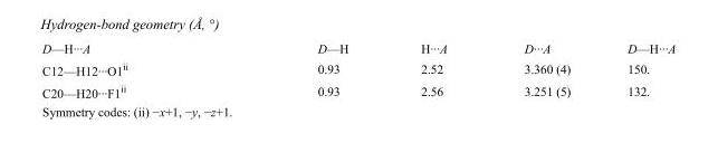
<table><tbody><tr><td>D—H···A</td><td>D—H</td><td>H···A</td><td>D···A</td><td>D—H···A</td></tr><tr><td>C12—H12···O1<sup>ii</sup></td><td>0.93</td><td>2.52</td><td>3.360 (4)</td><td>150.</td></tr><tr><td>C20—H20···F1<sup>ii</sup></td><td>0.93</td><td>2.56</td><td>3.251 (5)</td><td>132.</td></tr></tbody></table>